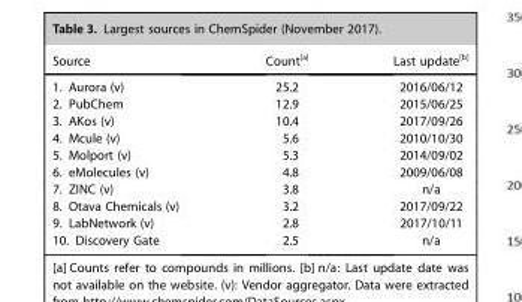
<table><thead><tr><td>Source</td><td>Count<sup>[a]</sup></td><td>Last update<sup>[b]</sup></td></tr></thead><tbody><tr><td>1. Aurora (v)</td><td>25.2</td><td>2016/06/12</td></tr><tr><td>2. PubChem</td><td>12.9</td><td>2015/06/25</td></tr><tr><td>3. AKos (v)</td><td>10.4</td><td>2017/09/26</td></tr><tr><td>4. Mcule (v)</td><td>5.6</td><td>2010/10/30</td></tr><tr><td>5. Molport (v)</td><td>5.3</td><td>2014/09/02</td></tr><tr><td>6. eMolecules (v)</td><td>4.8</td><td>2009/06/08</td></tr><tr><td>7. ZINC (v)</td><td>3.8</td><td>n/a</td></tr><tr><td>8. Otava Chemicals (v)</td><td>3.2</td><td>2017/09/22</td></tr><tr><td>9. LabNetwork (v)</td><td>2.8</td><td>2017/10/11</td></tr><tr><td>10. Discovery Gate</td><td>2.5</td><td>n/a</td></tr></tbody></table>